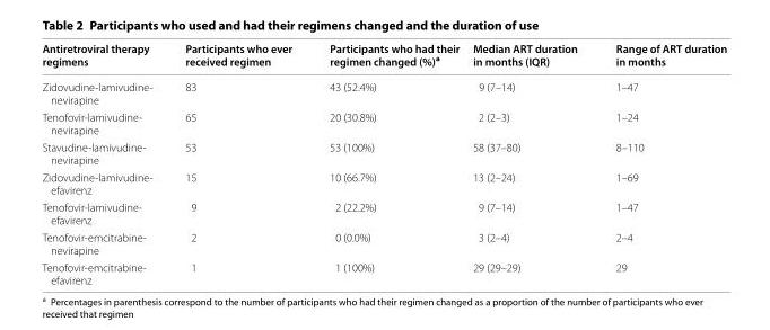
<table><thead><tr><td>Antiretroviral therapy regimens</td><td>Participants who ever received regimen</td><td>Participants who had their regimen changed (%)<sup>a</sup></td><td>Median ART duration in months (IQR)</td><td>Range of ART duration in months</td></tr></thead><tbody><tr><td>Zidovudine-lamivudine- nevirapine</td><td>83</td><td>43 (52.4%)</td><td>9 (7–14)</td><td>1–47</td></tr><tr><td>Tenofovir-lamivudine- nevirapine</td><td>65</td><td>20 (30.8%)</td><td>2 (2–3)</td><td>1–24</td></tr><tr><td>Stavudine-lamivudine- nevirapine</td><td>53</td><td>53 (100%)</td><td>58 (37–80)</td><td>8–110</td></tr><tr><td>Zidovudine-lamivudine- efavirenz</td><td>15</td><td>10 (66.7%)</td><td>13 (2–24)</td><td>1–69</td></tr><tr><td>Tenofovir-lamivudine- efavirenz</td><td>9</td><td>2 (22.2%)</td><td>9 (7–14)</td><td>1–47</td></tr><tr><td>Tenofovir-emcitrabine- nevirapine</td><td>2</td><td>0 (0.0%)</td><td>3 (2–4)</td><td>2–4</td></tr><tr><td>Tenofovir-emcitrabine- efavirenz</td><td>1</td><td>1 (100%)</td><td>29 (29–29)</td><td>29</td></tr></tbody></table>